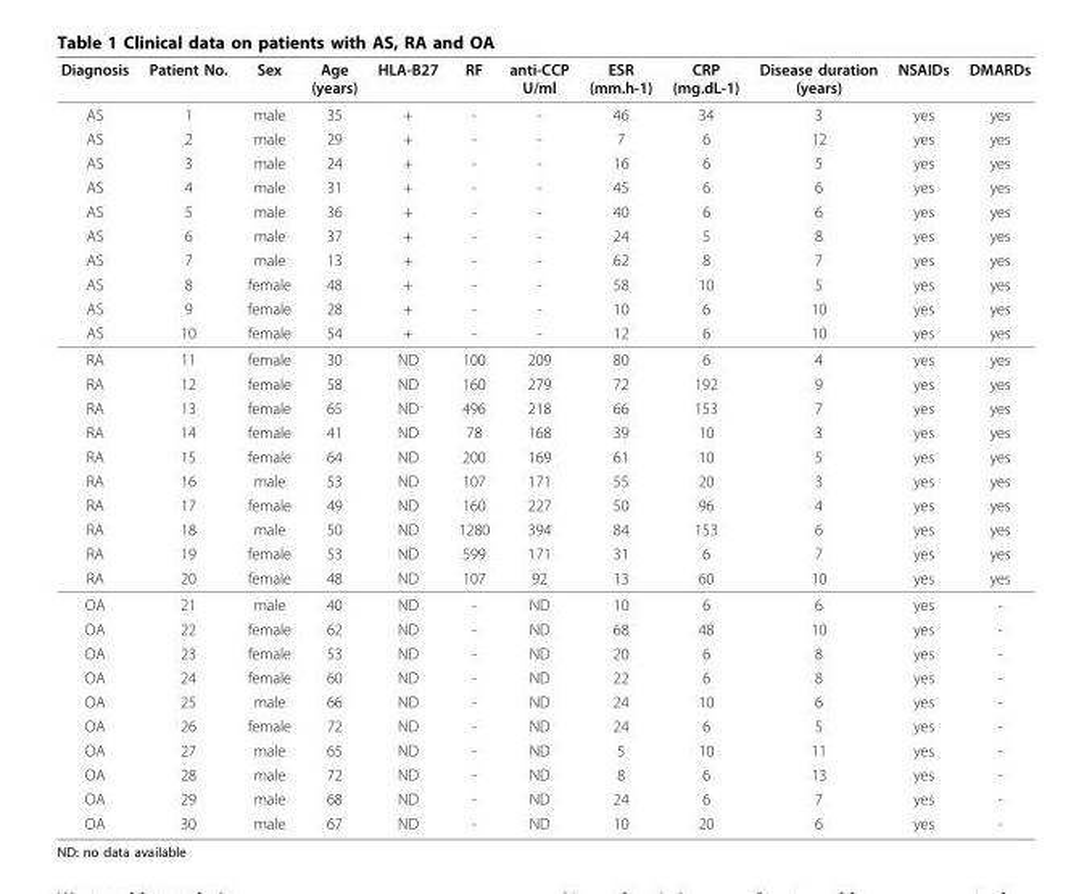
<table><thead><tr><td>Diagnosis</td><td>Patient No.</td><td>Sex</td><td>Age (years)</td><td>HLA-B27</td><td>RF</td><td>anti-CCP U/ml</td><td>ESR (mm.h-1)</td><td>CRP (mg.dL-1)</td><td>Disease duration (years)</td><td>NSAIDs</td><td>DMARDs</td></tr></thead><tbody><tr><td>AS</td><td>1</td><td>male</td><td>35</td><td>+</td><td>-</td><td>-</td><td>46</td><td>34</td><td>3</td><td>yes</td><td>yes</td></tr><tr><td>AS</td><td>2</td><td>male</td><td>29</td><td>+</td><td>-</td><td>-</td><td>7</td><td>6</td><td>12</td><td>yes</td><td>yes</td></tr><tr><td>AS</td><td>3</td><td>male</td><td>24</td><td>+</td><td>-</td><td>-</td><td>16</td><td>6</td><td>5</td><td>yes</td><td>yes</td></tr><tr><td>AS</td><td>4</td><td>male</td><td>31</td><td>+</td><td>-</td><td>-</td><td>45</td><td>6</td><td>6</td><td>yes</td><td>yes</td></tr><tr><td>AS</td><td>5</td><td>male</td><td>36</td><td>+</td><td>-</td><td>-</td><td>40</td><td>6</td><td>6</td><td>yes</td><td>yes</td></tr><tr><td>AS</td><td>6</td><td>male</td><td>37</td><td>+</td><td>-</td><td>-</td><td>24</td><td>5</td><td>8</td><td>yes</td><td>yes</td></tr><tr><td>AS</td><td>7</td><td>male</td><td>13</td><td>+</td><td>-</td><td>-</td><td>62</td><td>8</td><td>7</td><td>yes</td><td>yes</td></tr><tr><td>AS</td><td>8</td><td>female</td><td>48</td><td>+</td><td>-</td><td>-</td><td>58</td><td>10</td><td>5</td><td>yes</td><td>yes</td></tr><tr><td>AS</td><td>9</td><td>female</td><td>28</td><td>+</td><td>-</td><td>-</td><td>10</td><td>6</td><td>10</td><td>yes</td><td>yes</td></tr><tr><td>AS</td><td>10</td><td>female</td><td>54</td><td>+</td><td>-</td><td>-</td><td>12</td><td>6</td><td>10</td><td>yes</td><td>yes</td></tr><tr><td>RA</td><td>11</td><td>female</td><td>30</td><td>ND</td><td>100</td><td>209</td><td>80</td><td>6</td><td>4</td><td>yes</td><td>yes</td></tr><tr><td>RA</td><td>12</td><td>female</td><td>58</td><td>ND</td><td>160</td><td>279</td><td>72</td><td>192</td><td>9</td><td>yes</td><td>yes</td></tr><tr><td>RA</td><td>13</td><td>female</td><td>65</td><td>ND</td><td>496</td><td>218</td><td>66</td><td>153</td><td>7</td><td>yes</td><td>yes</td></tr><tr><td>RA</td><td>14</td><td>female</td><td>41</td><td>ND</td><td>78</td><td>168</td><td>39</td><td>10</td><td>3</td><td>yes</td><td>yes</td></tr><tr><td>RA</td><td>15</td><td>female</td><td>64</td><td>ND</td><td>200</td><td>169</td><td>61</td><td>10</td><td>5</td><td>yes</td><td>yes</td></tr><tr><td>RA</td><td>16</td><td>male</td><td>53</td><td>ND</td><td>107</td><td>171</td><td>55</td><td>20</td><td>3</td><td>yes</td><td>yes</td></tr><tr><td>RA</td><td>17</td><td>female</td><td>49</td><td>ND</td><td>160</td><td>227</td><td>50</td><td>96</td><td>4</td><td>yes</td><td>yes</td></tr><tr><td>RA</td><td>18</td><td>male</td><td>50</td><td>ND</td><td>1280</td><td>394</td><td>84</td><td>153</td><td>6</td><td>yes</td><td>yes</td></tr><tr><td>RA</td><td>19</td><td>female</td><td>53</td><td>ND</td><td>599</td><td>171</td><td>31</td><td>6</td><td>7</td><td>yes</td><td>yes</td></tr><tr><td>RA</td><td>20</td><td>female</td><td>48</td><td>ND</td><td>107</td><td>92</td><td>13</td><td>60</td><td>10</td><td>yes</td><td>yes</td></tr><tr><td>OA</td><td>21</td><td>male</td><td>40</td><td>ND</td><td>-</td><td>ND</td><td>10</td><td>6</td><td>6</td><td>yes</td><td>-</td></tr><tr><td>OA</td><td>22</td><td>female</td><td>62</td><td>ND</td><td>-</td><td>ND</td><td>68</td><td>48</td><td>10</td><td>yes</td><td>-</td></tr><tr><td>OA</td><td>23</td><td>female</td><td>53</td><td>ND</td><td>-</td><td>ND</td><td>20</td><td>6</td><td>8</td><td>yes</td><td>-</td></tr><tr><td>OA</td><td>24</td><td>female</td><td>60</td><td>ND</td><td>-</td><td>ND</td><td>22</td><td>6</td><td>8</td><td>yes</td><td>-</td></tr><tr><td>OA</td><td>25</td><td>male</td><td>66</td><td>ND</td><td>-</td><td>ND</td><td>24</td><td>10</td><td>6</td><td>yes</td><td>-</td></tr><tr><td>OA</td><td>26</td><td>female</td><td>72</td><td>ND</td><td>-</td><td>ND</td><td>24</td><td>6</td><td>5</td><td>yes</td><td>-</td></tr><tr><td>OA</td><td>27</td><td>male</td><td>65</td><td>ND</td><td>-</td><td>ND</td><td>5</td><td>10</td><td>11</td><td>yes</td><td>-</td></tr><tr><td>OA</td><td>28</td><td>male</td><td>72</td><td>ND</td><td>-</td><td>ND</td><td>8</td><td>6</td><td>13</td><td>yes</td><td>-</td></tr><tr><td>OA</td><td>29</td><td>male</td><td>68</td><td>ND</td><td>-</td><td>ND</td><td>24</td><td>6</td><td>7</td><td>yes</td><td>-</td></tr><tr><td>OA</td><td>30</td><td>male</td><td>67</td><td>ND</td><td>-</td><td>ND</td><td>10</td><td>20</td><td>6</td><td>yes</td><td>-</td></tr></tbody></table>